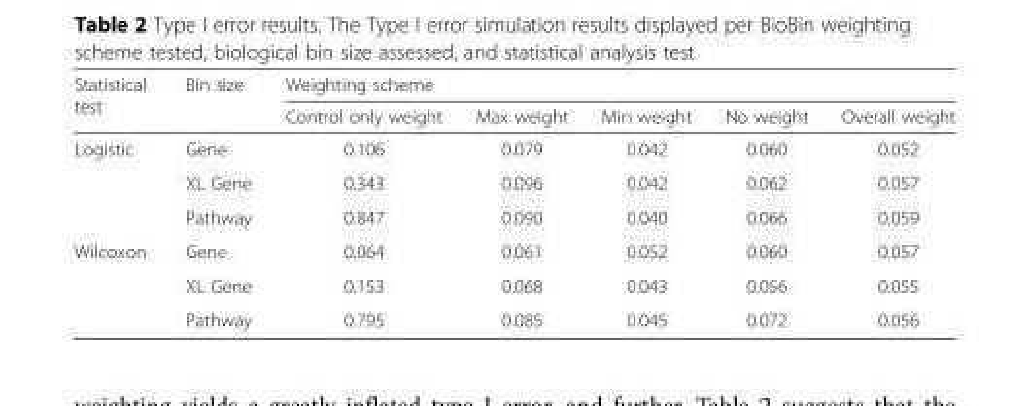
<table><thead><tr><td rowspan="2">Statistical test</td><td rowspan="2">Bin size</td><td colspan="5">Weighting scheme</td></tr><tr><td>Control only weight</td><td>Max weight</td><td>Min weight</td><td>No weight</td><td>Overall weight</td></tr></thead><tbody><tr><td rowspan="3">Logistic</td><td>Gene</td><td>0.106</td><td>0.079</td><td>0.042</td><td>0.060</td><td>0.052</td></tr><tr><td>XL Gene</td><td>0.343</td><td>0.096</td><td>0.042</td><td>0.062</td><td>0.057</td></tr><tr><td>Pathway</td><td>0.847</td><td>0.090</td><td>0.040</td><td>0.066</td><td>0.059</td></tr><tr><td rowspan="3">Wilcoxon</td><td>Gene</td><td>0.064</td><td>0.061</td><td>0.052</td><td>0.060</td><td>0.057</td></tr><tr><td>XL Gene</td><td>0.153</td><td>0.068</td><td>0.043</td><td>0.056</td><td>0.055</td></tr><tr><td>Pathway</td><td>0.795</td><td>0.085</td><td>0.045</td><td>0.072</td><td>0.056</td></tr></tbody></table>